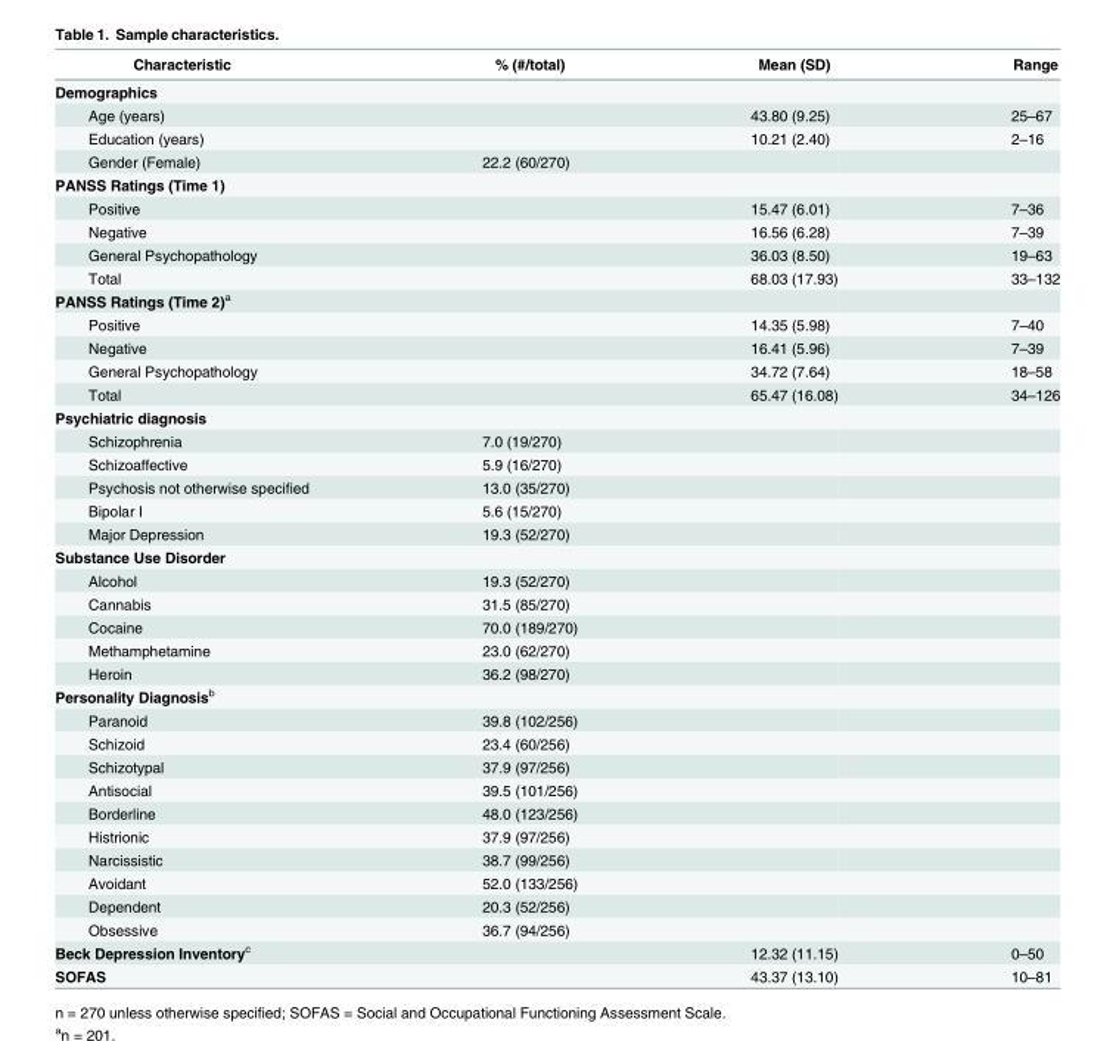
<table><thead><tr><td>Characteristic</td><td>% (#/total)</td><td>Mean (SD)</td><td>Range</td></tr></thead><tbody><tr><td colspan="4">Demographics</td></tr><tr><td>Age (years)</td><td></td><td>43.80 (9.25)</td><td>25–67</td></tr><tr><td>Education (years)</td><td></td><td>10.21 (2.40)</td><td>2–16</td></tr><tr><td>Gender (Female)</td><td>22.2 (60/270)</td><td></td><td></td></tr><tr><td colspan="4">PANSS Ratings (Time 1)</td></tr><tr><td>Positive</td><td></td><td>15.47 (6.01)</td><td>7–36</td></tr><tr><td>Negative</td><td></td><td>16.56 (6.28)</td><td>7–39</td></tr><tr><td>General Psychopathology</td><td></td><td>36.03 (8.50)</td><td>19–63</td></tr><tr><td>Total</td><td></td><td>68.03 (17.93)</td><td>33–132</td></tr><tr><td colspan="4">PANSS Ratings (Time 2)<sup>a</sup></td></tr><tr><td>Positive</td><td></td><td>14.35 (5.98)</td><td>7–40</td></tr><tr><td>Negative</td><td></td><td>16.41 (5.96)</td><td>7–39</td></tr><tr><td>General Psychopathology</td><td></td><td>34.72 (7.64)</td><td>18–58</td></tr><tr><td>Total</td><td></td><td>65.47 (16.08)</td><td>34–126</td></tr><tr><td colspan="4">Psychiatric diagnosis</td></tr><tr><td>Schizophrenia</td><td>7.0 (19/270)</td><td></td><td></td></tr><tr><td>Schizoaffective</td><td>5.9 (16/270)</td><td></td><td></td></tr><tr><td>Psychosis not otherwise specified</td><td>13.0 (35/270)</td><td></td><td></td></tr><tr><td>Bipolar I</td><td>5.6 (15/270)</td><td></td><td></td></tr><tr><td>Major Depression</td><td>19.3 (52/270)</td><td></td><td></td></tr><tr><td colspan="4">Substance Use Disorder</td></tr><tr><td>Alcohol</td><td>19.3 (52/270)</td><td></td><td></td></tr><tr><td>Cannabis</td><td>31.5 (85/270)</td><td></td><td></td></tr><tr><td>Cocaine</td><td>70.0 (189/270)</td><td></td><td></td></tr><tr><td>Methamphetamine</td><td>23.0 (62/270)</td><td></td><td></td></tr><tr><td>Heroin</td><td>36.2 (98/270)</td><td></td><td></td></tr><tr><td colspan="4">Personality Diagnosis<sup>b</sup></td></tr><tr><td>Paranoid</td><td>39.8 (102/256)</td><td></td><td></td></tr><tr><td>Schizoid</td><td>23.4 (60/256)</td><td></td><td></td></tr><tr><td>Schizotypal</td><td>37.9 (97/256)</td><td></td><td></td></tr><tr><td>Antisocial</td><td>39.5 (101/256)</td><td></td><td></td></tr><tr><td>Borderline</td><td>48.0 (123/256)</td><td></td><td></td></tr><tr><td>Histrionic</td><td>37.9 (97/256)</td><td></td><td></td></tr><tr><td>Narcissistic</td><td>38.7 (99/256)</td><td></td><td></td></tr><tr><td>Avoidant</td><td>52.0 (133/256)</td><td></td><td></td></tr><tr><td>Dependent</td><td>20.3 (52/256)</td><td></td><td></td></tr><tr><td>Obsessive</td><td>36.7 (94/256)</td><td></td><td></td></tr><tr><td>Beck Depression Inventory<sup>c</sup></td><td></td><td>12.32 (11.15)</td><td>0–50</td></tr><tr><td>SOFAS</td><td></td><td>43.37 (13.10)</td><td>10–81</td></tr></tbody></table>